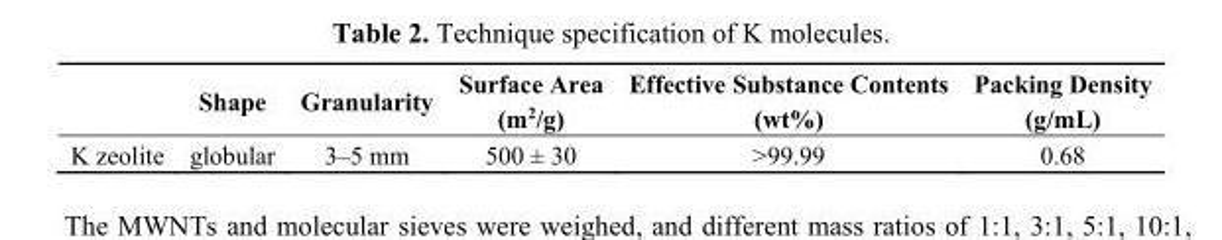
<table><thead><tr><td></td><td>Shape</td><td>Granularity</td><td>Surface Area (m<sup>2</sup>/g)</td><td>Effective Substance Contents (wt%)</td><td>Packing Density (g/mL)</td></tr></thead><tbody><tr><td>K zeolite</td><td>globular</td><td>3–5 mm</td><td>500 ± 30</td><td>&gt;99.99</td><td>0.68</td></tr></tbody></table>